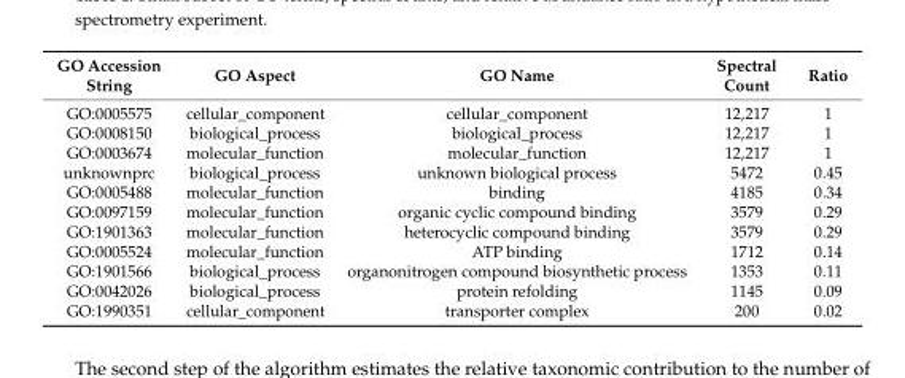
<table><thead><tr><td>GO Accession String</td><td>GO Aspect</td><td>GO Name</td><td>Spectral Count</td><td>Ratio</td></tr></thead><tbody><tr><td>GO:0005575</td><td>cellular_component</td><td>cellular_component</td><td>12,217</td><td>1</td></tr><tr><td>GO:0008150</td><td>biological_process</td><td>biological_process</td><td>12,217</td><td>1</td></tr><tr><td>GO:0003674</td><td>molecular_function</td><td>molecular_function</td><td>12,217</td><td>1</td></tr><tr><td>unknownprc</td><td>biological_process</td><td>unknown biological process</td><td>5472</td><td>0.45</td></tr><tr><td>GO:0005488</td><td>molecular_function</td><td>binding</td><td>4185</td><td>0.34</td></tr><tr><td>GO:0097159</td><td>molecular_function</td><td>organic cyclic compound binding</td><td>3579</td><td>0.29</td></tr><tr><td>GO:1901363</td><td>molecular_function</td><td>heterocyclic compound binding</td><td>3579</td><td>0.29</td></tr><tr><td>GO:0005524</td><td>molecular_function</td><td>ATP binding</td><td>1712</td><td>0.14</td></tr><tr><td>GO:1901566</td><td>biological_process</td><td>organonitrogen compound biosynthetic process</td><td>1353</td><td>0.11</td></tr><tr><td>GO:0042026</td><td>biological_process</td><td>protein refolding</td><td>1145</td><td>0.09</td></tr><tr><td>GO:1990351</td><td>cellular_component</td><td>transporter complex</td><td>200</td><td>0.02</td></tr></tbody></table>